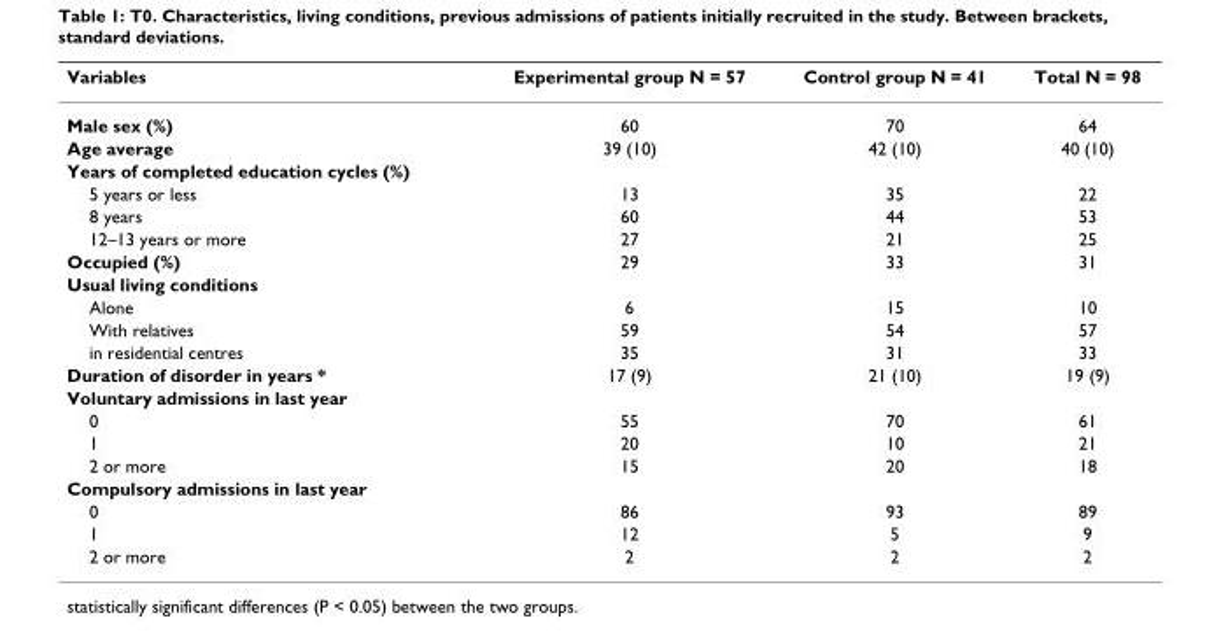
<table><thead><tr><td>Variables</td><td>Experimental group N = 57</td><td>Control group N = 41</td><td>Total N = 98</td></tr></thead><tbody><tr><td>Male sex (%)</td><td>60</td><td>70</td><td>64</td></tr><tr><td>Age average</td><td>39 (10)</td><td>42 (10)</td><td>40 (10)</td></tr><tr><td colspan="4">Years of completed education cycles (%)</td></tr><tr><td>5 years or less</td><td>13</td><td>35</td><td>22</td></tr><tr><td>8 years</td><td>60</td><td>44</td><td>53</td></tr><tr><td>12–13 years or more</td><td>27</td><td>21</td><td>25</td></tr><tr><td>Occupied (%)</td><td>29</td><td>33</td><td>31</td></tr><tr><td colspan="4">Usual living conditions</td></tr><tr><td>Alone</td><td>6</td><td>15</td><td>10</td></tr><tr><td>With relatives</td><td>59</td><td>54</td><td>57</td></tr><tr><td>in residential centres</td><td>35</td><td>31</td><td>33</td></tr><tr><td>Duration of disorder in years *</td><td>17 (9)</td><td>21 (10)</td><td>19 (9)</td></tr><tr><td colspan="4">Voluntary admissions in last year</td></tr><tr><td>0</td><td>55</td><td>70</td><td>61</td></tr><tr><td>1</td><td>20</td><td>10</td><td>21</td></tr><tr><td>2 or more</td><td>15</td><td>20</td><td>18</td></tr><tr><td colspan="4">Compulsory admissions in last year</td></tr><tr><td>0</td><td>86</td><td>93</td><td>89</td></tr><tr><td>1</td><td>12</td><td>5</td><td>9</td></tr><tr><td>2 or more</td><td>2</td><td>2</td><td>2</td></tr></tbody></table>